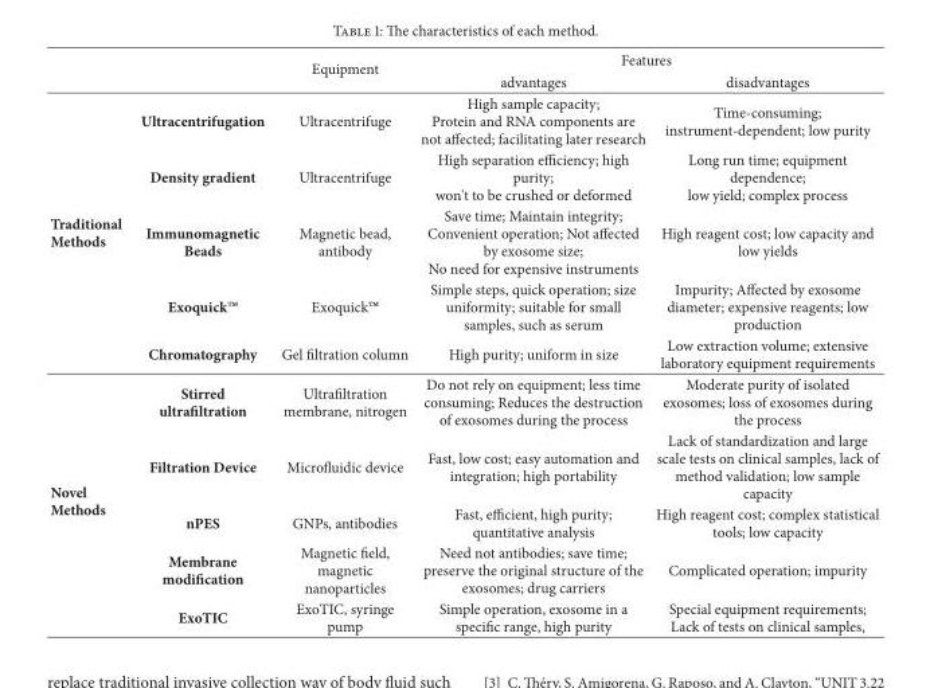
<table><thead><tr><td rowspan="2"></td><td rowspan="2"></td><td rowspan="2">Equipment</td><td colspan="2">Features</td></tr><tr><td>advantages</td><td>disadvantages</td></tr></thead><tbody><tr><td rowspan="5">Traditional Methods</td><td>Ultracentrifugation</td><td>Ultracentrifuge</td><td>High sample capacity; Protein and RNA components are not affected; facilitating later research</td><td>Time-consuming; instrument-dependent; low purity</td></tr><tr><td>Density gradient</td><td>Ultracentrifuge</td><td>High separation efficiency; high purity; won&#x27;t to be crushed or deformed</td><td>Long run time; equipment dependence; low yield; complex process</td></tr><tr><td>Immunomagnetic Beads</td><td>Magnetic bead, antibody</td><td>Save time; Maintain integrity; Convenient operation; Not affected by exosome size; No need for expensive instruments</td><td>High reagent cost; low capacity and low yields</td></tr><tr><td>Exoquick™</td><td>Exoquick™</td><td>Simple steps, quick operation; size uniformity; suitable for small samples, such as serum</td><td>Impurity; Affected by exosome diameter; expensive reagents; low production</td></tr><tr><td>Chromatography</td><td>Gel filtration column</td><td>High purity; uniform in size</td><td>Low extraction volume; extensive laboratory equipment requirements</td></tr><tr><td rowspan="5">Novel Methods</td><td>Stirred ultrafiltration</td><td>Ultrafiltration membrane, nitrogen</td><td>Do not rely on equipment; less time consuming; Reduces the destruction of exosomes during the process</td><td>Moderate purity of isolated exosomes; loss of exosomes during the process</td></tr><tr><td>Filtration Device</td><td>Microfluidic device</td><td>Fast, low cost; easy automation and integration; high portability</td><td>Lack of standardization and large scale tests on clinical samples, lack of method validation; low sample capacity</td></tr><tr><td>nPES</td><td>GNPs, antibodies</td><td>Fast, efficient, high purity; quantitative analysis</td><td>High reagent cost; complex statistical tools; low capacity</td></tr><tr><td>Membrane modification</td><td>Magnetic field, magnetic nanoparticles</td><td>Need not antibodies; save time; preserve the original structure of the exosomes; drug carriers</td><td>Complicated operation; impurity</td></tr><tr><td>ExoTIC</td><td>ExoTIC, syringe pump</td><td>Simple operation, exosome in a specific range, high purity</td><td>Special equipment requirements; Lack of tests on clinical samples,</td></tr></tbody></table>